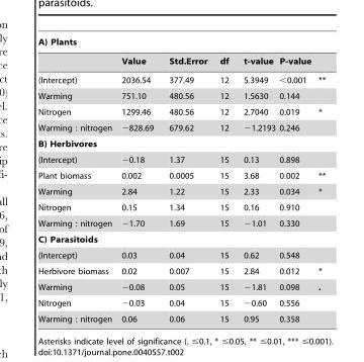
<table><thead><tr><td colspan="7">A) Plants</td></tr><tr><td></td><td>Value</td><td>Std.Error</td><td>df</td><td>t-value</td><td>P-value</td><td></td></tr></thead><tbody><tr><td>(Intercept)</td><td>2036.54</td><td>377.49</td><td>12</td><td>5.3949</td><td>&lt;0.001</td><td>**</td></tr><tr><td>Warming</td><td>751.10</td><td>480.56</td><td>12</td><td>1.5630</td><td>0.144</td><td></td></tr><tr><td>Nitrogen</td><td>1299.46</td><td>480.56</td><td>12</td><td>2.7040</td><td>0.019</td><td>*</td></tr><tr><td>Warming : nitrogen</td><td>−828.69</td><td>679.62</td><td>12</td><td>−1.2193</td><td>0.246</td><td></td></tr><tr><td colspan="7">B) Herbivores</td></tr><tr><td>(Intercept)</td><td>−0.18</td><td>1.37</td><td>15</td><td>0.13</td><td>0.898</td><td></td></tr><tr><td>Plant biomass</td><td>0.002</td><td>0.0005</td><td>15</td><td>3.68</td><td>0.002</td><td>**</td></tr><tr><td>Warming</td><td>2.84</td><td>1.22</td><td>15</td><td>2.33</td><td>0.034</td><td>*</td></tr><tr><td>Nitrogen</td><td>0.15</td><td>1.34</td><td>15</td><td>0.16</td><td>0.910</td><td></td></tr><tr><td>Warming : nitrogen</td><td>−1.70</td><td>1.69</td><td>15</td><td>−1.01</td><td>0.330</td><td></td></tr><tr><td colspan="7">C) Parasitoids</td></tr><tr><td>(Intercept)</td><td>0.03</td><td>0.04</td><td>15</td><td>0.62</td><td>0.548</td><td></td></tr><tr><td>Herbivore biomass</td><td>0.02</td><td>0.007</td><td>15</td><td>2.84</td><td>0.012</td><td>*</td></tr><tr><td>Warming</td><td>−0.08</td><td>0.05</td><td>15</td><td>−1.81</td><td>0.098</td><td>.</td></tr><tr><td>Nitrogen</td><td>−0.03</td><td>0.04</td><td>15</td><td>−0.60</td><td>0.556</td><td></td></tr><tr><td>Warming : nitrogen</td><td>0.06</td><td>0.06</td><td>15</td><td>0.95</td><td>0.358</td><td></td></tr></tbody></table>